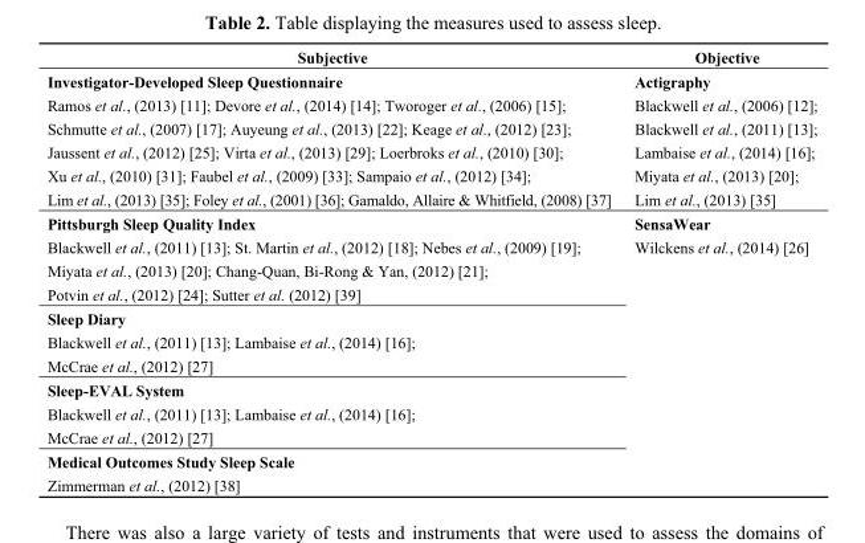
<table><thead><tr><td>Subjective</td><td>Objective</td></tr></thead><tbody><tr><td>Investigator-Developed Sleep Questionnaire</td><td>Actigraphy</td></tr><tr><td>Ramos et al., (2013) [11]; Devore et al., (2014) [14]; Tworoger et al., (2006) [15]; Schmutte et al., (2007) [17]; Auyeung et al., (2013) [22]; Keage et al., (2012) [23]; Jaussent et al., (2012) [25]; Virta et al., (2013) [29]; Loerbroks et al., (2010) [30]; Xu et al., (2010) [31]; Faubel et al., (2009) [33]; Sampaio et al., (2012) [34]; Lim et al., (2013) [35]; Foley et al., (2001) [36]; Gamaldo, Allaire &amp; Whitfield, (2008) [37]</td><td>Blackwell et al., (2006) [12]; Blackwell et al., (2011) [13]; Lambaise et al., (2014) [16]; Miyata et al., (2013) [20]; Lim et al., (2013) [35]</td></tr><tr><td>Pittsburgh Sleep Quality Index</td><td>SensaWear</td></tr><tr><td>Blackwell et al., (2011) [13]; St. Martin et al., (2012) [18]; Nebes et al., (2009) [19]; Miyata et al., (2013) [20]; Chang-Quan, Bi-Rong &amp; Yan, (2012) [21]; Potvin et al., (2012) [24]; Sutter et al. (2012) [39]</td><td rowspan="7">Wilckens et al., (2014) [26]</td></tr><tr><td>Sleep Diary</td></tr><tr><td>Blackwell et al., (2011) [13]; Lambaise et al., (2014) [16]; McCrae et al., (2012) [27]</td></tr><tr><td>Sleep-EVAL System</td></tr><tr><td>Blackwell et al., (2011) [13]; Lambaise et al., (2014) [16]; McCrae et al., (2012) [27]</td></tr><tr><td>Medical Outcomes Study Sleep Scale</td></tr><tr><td>Zimmerman et al., (2012) [38]</td></tr></tbody></table>